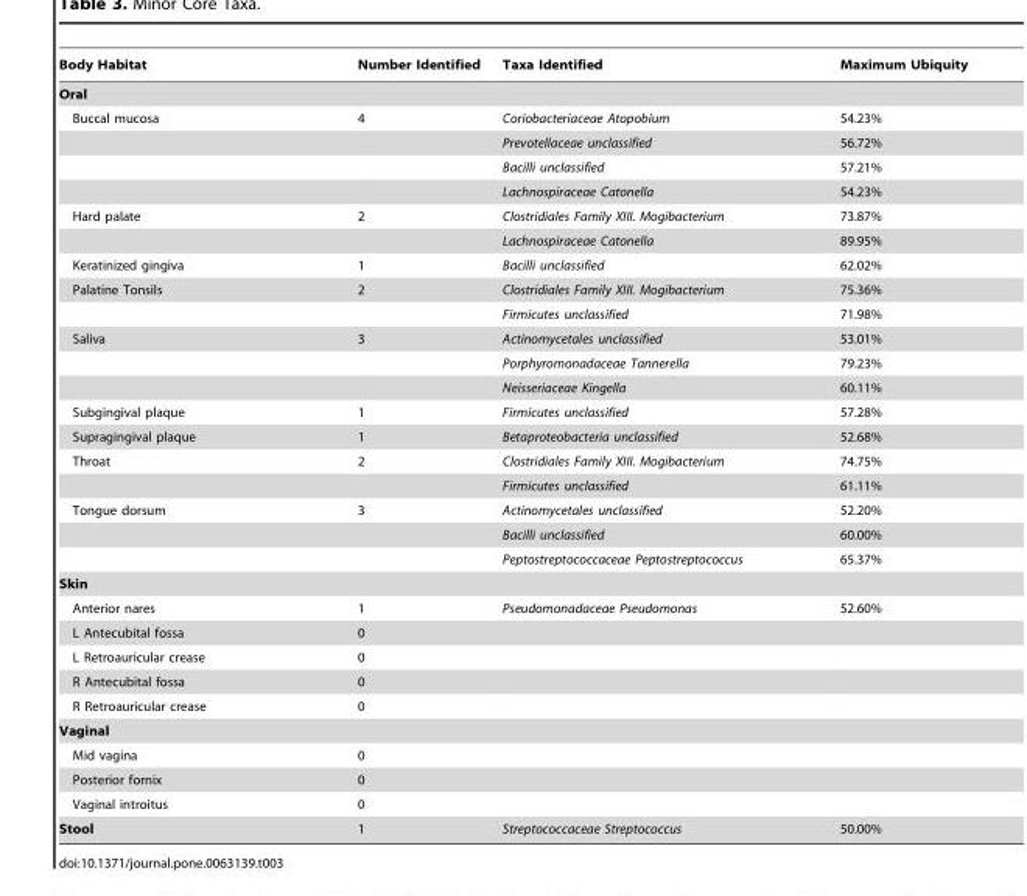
<table><thead><tr><td>Body Habitat</td><td>Number Identified</td><td>Taxa Identified</td><td>Maximum Ubiquity</td></tr></thead><tbody><tr><td colspan="4">Oral</td></tr><tr><td rowspan="4">Buccal mucosa</td><td>4</td><td>Coriobacteriaceae Atopobium</td><td>54.23%</td></tr><tr><td></td><td>Prevotellaceae unclassified</td><td>56.72%</td></tr><tr><td></td><td>Bacilli unclassified</td><td>57.21%</td></tr><tr><td></td><td>Lachnospiraceae Catonella</td><td>54.23%</td></tr><tr><td rowspan="2">Hard palate</td><td>2</td><td>Clostridiales Family XIII. Mogibacterium</td><td>73.87%</td></tr><tr><td></td><td>Lachnospiraceae Catonella</td><td>89.95%</td></tr><tr><td>Keratinized gingiva</td><td>1</td><td>Bacilli unclassified</td><td>62.02%</td></tr><tr><td rowspan="2">Palatine Tonsils</td><td>2</td><td>Clostridiales Family XIII. Mogibacterium</td><td>75.36%</td></tr><tr><td></td><td>Firmicutes unclassified</td><td>71.98%</td></tr><tr><td rowspan="3">Saliva</td><td>3</td><td>Actinomycetales unclassified</td><td>53.01%</td></tr><tr><td></td><td>Porphyromonadaceae Tannerella</td><td>79.23%</td></tr><tr><td></td><td>Neisseriaceae Kingella</td><td>60.11%</td></tr><tr><td>Subgingival plaque</td><td>1</td><td>Firmicutes unclassified</td><td>57.28%</td></tr><tr><td>Supragingival plaque</td><td>1</td><td>Betaproteobacteria unclassified</td><td>52.68%</td></tr><tr><td rowspan="2">Throat</td><td>2</td><td>Clostridiales Family XIII. Mogibacterium</td><td>74.75%</td></tr><tr><td></td><td>Firmicutes unclassified</td><td>61.11%</td></tr><tr><td rowspan="3">Tongue dorsum</td><td>3</td><td>Actinomycetales unclassified</td><td>52.20%</td></tr><tr><td></td><td>Bacilli unclassified</td><td>60.00%</td></tr><tr><td></td><td>Peptostreptococcaceae Peptostreptococcus</td><td>65.37%</td></tr><tr><td colspan="4">Skin</td></tr><tr><td>Anterior nares</td><td>1</td><td>Pseudomonadaceae Pseudomonas</td><td>52.60%</td></tr><tr><td>L Antecubital fossa</td><td>0</td><td></td><td></td></tr><tr><td>L Retroauricular crease</td><td>0</td><td></td><td></td></tr><tr><td>R Antecubital fossa</td><td>0</td><td></td><td></td></tr><tr><td>R Retroauricular crease</td><td>0</td><td></td><td></td></tr><tr><td colspan="4">Vaginal</td></tr><tr><td>Mid vagina</td><td>0</td><td></td><td></td></tr><tr><td>Posterior fornix</td><td>0</td><td></td><td></td></tr><tr><td>Vaginal introitus</td><td>0</td><td></td><td></td></tr><tr><td>Stool</td><td>1</td><td>Streptococcaceae Streptococcus</td><td>50.00%</td></tr></tbody></table>